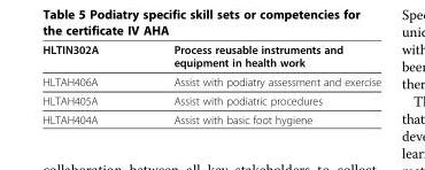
<table><thead><tr><td>HLTIN302A</td><td>Process reusable instruments and equipment in health work</td></tr></thead><tbody><tr><td>HLTAH406A</td><td>Assist with podiatry assessment and exercise</td></tr><tr><td>HLTAH405A</td><td>Assist with podiatric procedures</td></tr><tr><td>HLTAH404A</td><td>Assist with basic foot hygiene</td></tr></tbody></table>